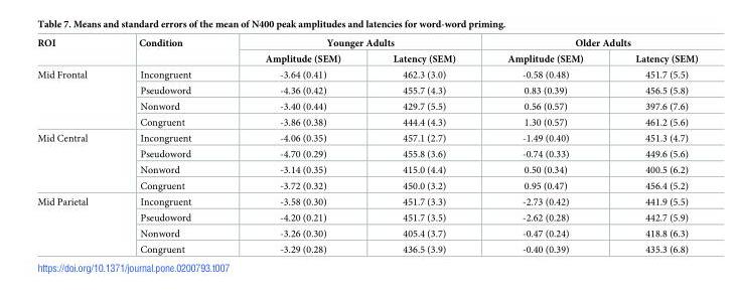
<table><thead><tr><td rowspan="2">ROI</td><td rowspan="2">Condition</td><td colspan="2">Younger Adults</td><td colspan="2">Older Adults</td></tr><tr><td>Amplitude (SEM)</td><td>Latency (SEM)</td><td>Amplitude (SEM)</td><td>Latency (SEM)</td></tr></thead><tbody><tr><td rowspan="4">Mid Frontal</td><td>Incongruent</td><td>-3.64 (0.41)</td><td>462.3 (3.0)</td><td>-0.58 (0.48)</td><td>451.7 (5.5)</td></tr><tr><td>Pseudoword</td><td>-4.36 (0.42)</td><td>455.7 (4.3)</td><td>0.83 (0.39)</td><td>456.5 (5.8)</td></tr><tr><td>Nonword</td><td>-3.40 (0.44)</td><td>429.7 (5.5)</td><td>0.56 (0.57)</td><td>397.6 (7.6)</td></tr><tr><td>Congruent</td><td>-3.86 (0.38)</td><td>444.4 (4.3)</td><td>1.30 (0.57)</td><td>461.2 (5.6)</td></tr><tr><td rowspan="4">Mid Central</td><td>Incongruent</td><td>-4.06 (0.35)</td><td>457.1 (2.7)</td><td>-1.49 (0.40)</td><td>451.3 (4.7)</td></tr><tr><td>Pseudoword</td><td>-4.70 (0.29)</td><td>455.8 (3.6)</td><td>-0.74 (0.33)</td><td>449.6 (5.6)</td></tr><tr><td>Nonword</td><td>-3.14 (0.35)</td><td>415.0 (4.4)</td><td>0.50 (0.34)</td><td>400.5 (6.2)</td></tr><tr><td>Congruent</td><td>-3.72 (0.32)</td><td>450.0 (3.2)</td><td>0.95 (0.47)</td><td>456.4 (5.2)</td></tr><tr><td rowspan="4">Mid Parietal</td><td>Incongruent</td><td>-3.58 (0.30)</td><td>451.7 (3.3)</td><td>-2.73 (0.42)</td><td>441.9 (5.5)</td></tr><tr><td>Pseudoword</td><td>-4.20 (0.21)</td><td>451.7 (3.5)</td><td>-2.62 (0.28)</td><td>442.7 (5.9)</td></tr><tr><td>Nonword</td><td>-3.26 (0.30)</td><td>405.4 (3.7)</td><td>-0.47 (0.24)</td><td>418.8 (6.3)</td></tr><tr><td>Congruent</td><td>-3.29 (0.28)</td><td>436.5 (3.9)</td><td>-0.40 (0.39)</td><td>435.3 (6.8)</td></tr></tbody></table>